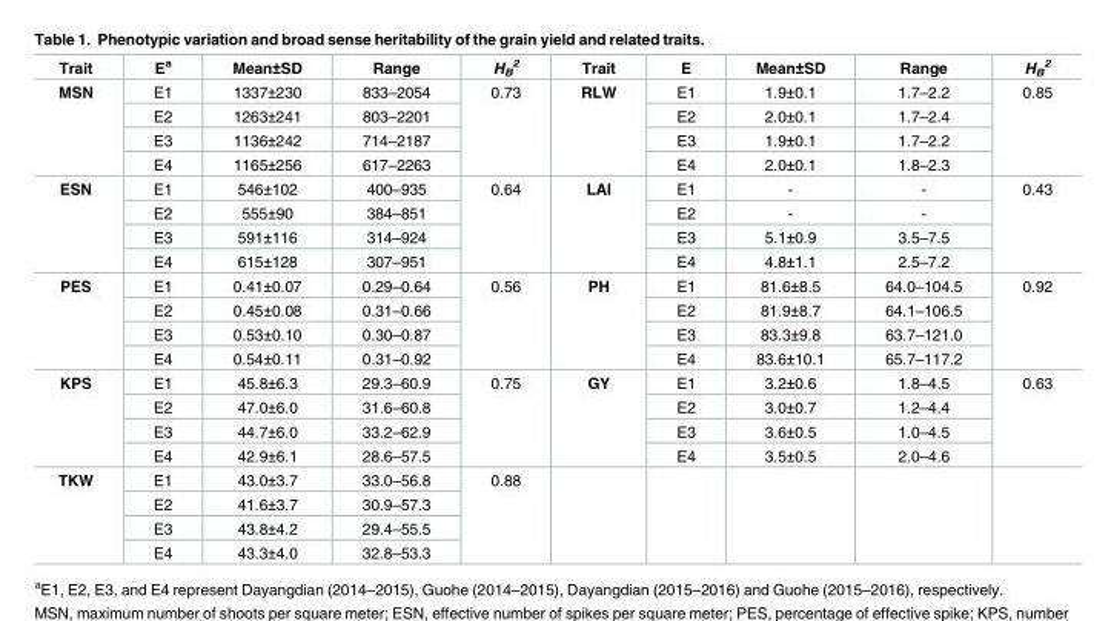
<table><thead><tr><td>Trait</td><td>E<sup>a</sup></td><td>Mean±SD</td><td>Range</td><td>H<sub>B</sub> <sup>2</sup></td><td>Trait</td><td>E</td><td>Mean±SD</td><td>Range</td><td>H<sub>B</sub> <sup>2</sup></td></tr></thead><tbody><tr><td rowspan="4">MSN</td><td>E1</td><td>1337±230</td><td>833–2054</td><td rowspan="4">0.73</td><td rowspan="4">RLW</td><td>E1</td><td>1.9±0.1</td><td>1.7–2.2</td><td rowspan="4">0.85</td></tr><tr><td>E2</td><td>1263±241</td><td>803–2201</td><td>E2</td><td>2.0±0.1</td><td>1.7–2.4</td></tr><tr><td>E3</td><td>1136±242</td><td>714–2187</td><td>E3</td><td>1.9±0.1</td><td>1.7–2.2</td></tr><tr><td>E4</td><td>1165±256</td><td>617–2263</td><td>E4</td><td>2.0±0.1</td><td>1.8–2.3</td></tr><tr><td rowspan="4">ESN</td><td>E1</td><td>546±102</td><td>400–935</td><td rowspan="4">0.64</td><td rowspan="4">LAI</td><td>E1</td><td>-</td><td>-</td><td rowspan="4">0.43</td></tr><tr><td>E2</td><td>555±90</td><td>384–851</td><td>E2</td><td>-</td><td>-</td></tr><tr><td>E3</td><td>591±116</td><td>314–924</td><td>E3</td><td>5.1±0.9</td><td>3.5–7.5</td></tr><tr><td>E4</td><td>615±128</td><td>307–951</td><td>E4</td><td>4.8±1.1</td><td>2.5–7.2</td></tr><tr><td rowspan="4">PES</td><td>E1</td><td>0.41±0.07</td><td>0.29–0.64</td><td rowspan="4">0.56</td><td rowspan="4">PH</td><td>E1</td><td>81.6±8.5</td><td>64.0–104.5</td><td rowspan="4">0.92</td></tr><tr><td>E2</td><td>0.45±0.08</td><td>0.31–0.66</td><td>E2</td><td>81.9±8.7</td><td>64.1–106.5</td></tr><tr><td>E3</td><td>0.53±0.10</td><td>0.30–0.87</td><td>E3</td><td>83.3±9.8</td><td>63.7–121.0</td></tr><tr><td>E4</td><td>0.54±0.11</td><td>0.31–0.92</td><td>E4</td><td>83.6±10.1</td><td>65.7–117.2</td></tr><tr><td rowspan="4">KPS</td><td>E1</td><td>45.8±6.3</td><td>29.3–60.9</td><td rowspan="4">0.75</td><td rowspan="4">GY</td><td>E1</td><td>3.2±0.6</td><td>1.8–4.5</td><td rowspan="4">0.63</td></tr><tr><td>E2</td><td>47.0±6.0</td><td>31.6–60.8</td><td>E2</td><td>3.0±0.7</td><td>1.2–4.4</td></tr><tr><td>E3</td><td>44.7±6.0</td><td>33.2–62.9</td><td>E3</td><td>3.6±0.5</td><td>1.0–4.5</td></tr><tr><td>E4</td><td>42.9±6.1</td><td>28.6–57.5</td><td>E4</td><td>3.5±0.5</td><td>2.0–4.6</td></tr><tr><td rowspan="4">TKW</td><td>E1</td><td>43.0±3.7</td><td>33.0–56.8</td><td rowspan="4">0.88</td><td rowspan="4"></td><td rowspan="4"></td><td rowspan="4"></td><td rowspan="4"></td><td rowspan="4"></td></tr><tr><td>E2</td><td>41.6±3.7</td><td>30.9–57.3</td></tr><tr><td>E3</td><td>43.8±4.2</td><td>29.4–55.5</td></tr><tr><td>E4</td><td>43.3±4.0</td><td>32.8–53.3</td></tr></tbody></table>